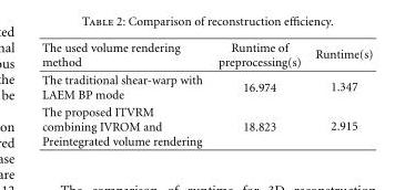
<table><thead><tr><td>The used volume rendering method</td><td>Runtime of preprocessing(s)</td><td>Runtime(s)</td></tr></thead><tbody><tr><td>The traditional shear-warp with LAEM BP mode</td><td>16.974</td><td>1.347</td></tr><tr><td>The proposed ITVRM combining IVROM and Preintegrated volume rendering</td><td>18.823</td><td>2.915</td></tr></tbody></table>